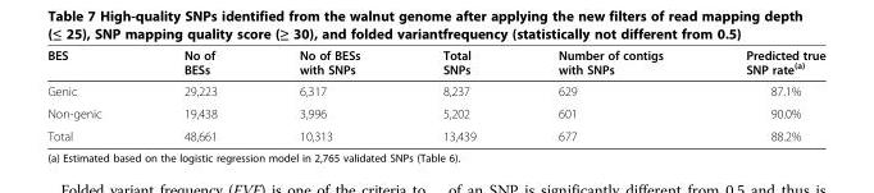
<table><thead><tr><td>BES</td><td>No of BESs</td><td>No of BESs with SNPs</td><td>Total SNPs</td><td>Number of contigs with SNPs</td><td>Predicted true SNP rate<sup>(a)</sup></td></tr></thead><tbody><tr><td>Genic</td><td>29,223</td><td>6,317</td><td>8,237</td><td>629</td><td>87.1%</td></tr><tr><td>Non-genic</td><td>19,438</td><td>3,996</td><td>5,202</td><td>601</td><td>90.0%</td></tr><tr><td>Total</td><td>48,661</td><td>10,313</td><td>13,439</td><td>677</td><td>88.2%</td></tr></tbody></table>